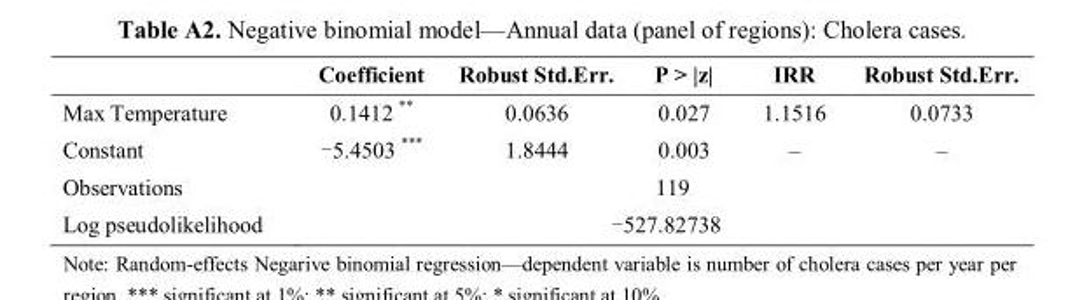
<table><thead><tr><td></td><td>Coefficient</td><td>Robust Std.Err.</td><td>P &gt; |z|</td><td>IRR</td><td>Robust Std.Err.</td></tr></thead><tbody><tr><td>Max Temperature</td><td>0.1412 **</td><td>0.0636</td><td>0.027</td><td>1.1516</td><td>0.0733</td></tr><tr><td>Constant</td><td>-5.4503 ***</td><td>1.8444</td><td>0.003</td><td>–</td><td>–</td></tr><tr><td>Observations</td><td colspan="5">119</td></tr><tr><td>Log pseudolikelihood</td><td colspan="5">-527.82738</td></tr></tbody></table>